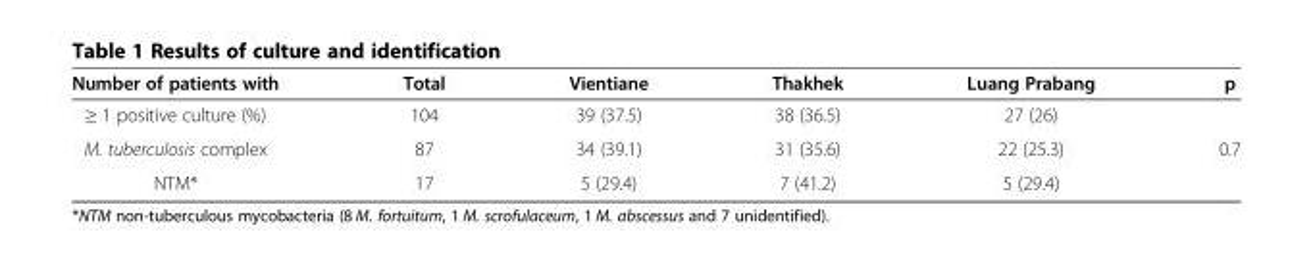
<table><thead><tr><td>Number of patients with</td><td>Total</td><td>Vientiane</td><td>Thakhek</td><td>Luang Prabang</td><td>p</td></tr></thead><tbody><tr><td>≥ 1 positive culture (%)</td><td>104</td><td>39 (37.5)</td><td>38 (36.5)</td><td>27 (26)</td><td></td></tr><tr><td>M. tuberculosis complex</td><td>87</td><td>34 (39.1)</td><td>31 (35.6)</td><td>22 (25.3)</td><td>0.7</td></tr><tr><td>NTM*</td><td>17</td><td>5 (29.4)</td><td>7 (41.2)</td><td>5 (29.4)</td><td></td></tr></tbody></table>